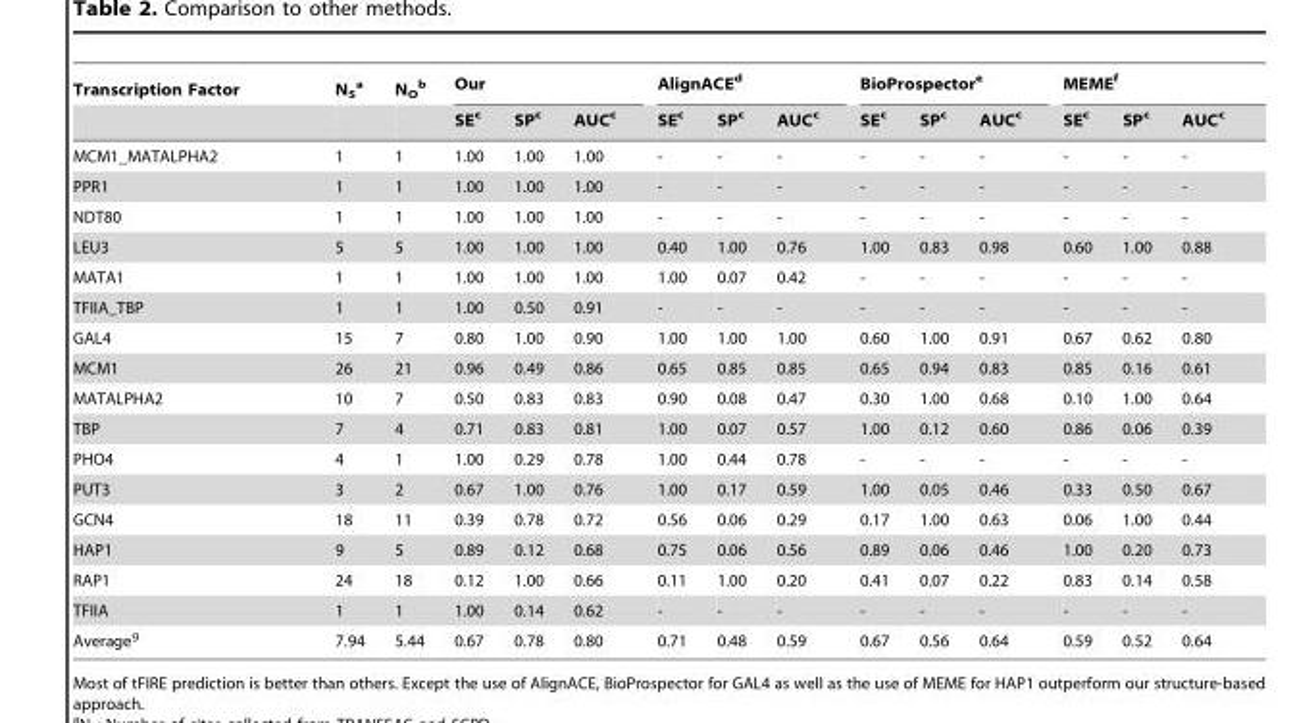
<table><thead><tr><td rowspan="2">Transcription Factor</td><td rowspan="2">N<sub>S</sub> a</td><td rowspan="2">N<sub>O</sub> b</td><td colspan="3">Our</td><td colspan="3">AlignACE<sup>d</sup></td><td colspan="3">BioProspector<sup>e</sup></td><td colspan="3">MEME<sup>f</sup></td></tr><tr><td>SE<sup>c</sup></td><td>SP<sup>c</sup></td><td>AUC<sup>c</sup></td><td>SE<sup>c</sup></td><td>SP<sup>c</sup></td><td>AUC<sup>c</sup></td><td>SE<sup>c</sup></td><td>SP<sup>c</sup></td><td>AUC<sup>c</sup></td><td>SE<sup>c</sup></td><td>SP<sup>c</sup></td><td>AUC<sup>c</sup></td></tr></thead><tbody><tr><td>MCM1_MATALPHA2</td><td>1</td><td>1</td><td>1.00</td><td>1.00</td><td>1.00</td><td>-</td><td>-</td><td>-</td><td>-</td><td>-</td><td>-</td><td>-</td><td>-</td><td>-</td></tr><tr><td>PPR1</td><td>1</td><td>1</td><td>1.00</td><td>1.00</td><td>1.00</td><td>-</td><td>-</td><td>-</td><td>-</td><td>-</td><td>-</td><td>-</td><td>-</td><td>-</td></tr><tr><td>NDT80</td><td>1</td><td>1</td><td>1.00</td><td>1.00</td><td>1.00</td><td>-</td><td>-</td><td>-</td><td>-</td><td>-</td><td>-</td><td>-</td><td>-</td><td>-</td></tr><tr><td>LEU3</td><td>5</td><td>5</td><td>1.00</td><td>1.00</td><td>1.00</td><td>0.40</td><td>1.00</td><td>0.76</td><td>1.00</td><td>0.83</td><td>0.98</td><td>0.60</td><td>1.00</td><td>0.88</td></tr><tr><td>MATA1</td><td>1</td><td>1</td><td>1.00</td><td>1.00</td><td>1.00</td><td>1.00</td><td>0.07</td><td>0.42</td><td>-</td><td>-</td><td>-</td><td>-</td><td>-</td><td>-</td></tr><tr><td>TFIIA_TBP</td><td>1</td><td>1</td><td>1.00</td><td>0.50</td><td>0.91</td><td>-</td><td>-</td><td>-</td><td>-</td><td>-</td><td>-</td><td>-</td><td>-</td><td>-</td></tr><tr><td>GAL4</td><td>15</td><td>7</td><td>0.80</td><td>1.00</td><td>0.90</td><td>1.00</td><td>1.00</td><td>1.00</td><td>0.60</td><td>1.00</td><td>0.91</td><td>0.67</td><td>0.62</td><td>0.80</td></tr><tr><td>MCM1</td><td>26</td><td>21</td><td>0.96</td><td>0.49</td><td>0.86</td><td>0.65</td><td>0.85</td><td>0.85</td><td>0.65</td><td>0.94</td><td>0.83</td><td>0.85</td><td>0.16</td><td>0.61</td></tr><tr><td>MATALPHA2</td><td>10</td><td>7</td><td>0.50</td><td>0.83</td><td>0.83</td><td>0.90</td><td>0.08</td><td>0.47</td><td>0.30</td><td>1.00</td><td>0.68</td><td>0.10</td><td>1.00</td><td>0.64</td></tr><tr><td>TBP</td><td>7</td><td>4</td><td>0.71</td><td>0.83</td><td>0.81</td><td>1.00</td><td>0.07</td><td>0.57</td><td>1.00</td><td>0.12</td><td>0.60</td><td>0.86</td><td>0.06</td><td>0.39</td></tr><tr><td>PHO4</td><td>4</td><td>1</td><td>1.00</td><td>0.29</td><td>0.78</td><td>1.00</td><td>0.44</td><td>0.78</td><td>-</td><td>-</td><td>-</td><td>-</td><td>-</td><td>-</td></tr><tr><td>PUT3</td><td>3</td><td>2</td><td>0.67</td><td>1.00</td><td>0.76</td><td>1.00</td><td>0.17</td><td>0.59</td><td>1.00</td><td>0.05</td><td>0.46</td><td>0.33</td><td>0.50</td><td>0.67</td></tr><tr><td>GCN4</td><td>18</td><td>11</td><td>0.39</td><td>0.78</td><td>0.72</td><td>0.56</td><td>0.06</td><td>0.29</td><td>0.17</td><td>1.00</td><td>0.63</td><td>0.06</td><td>1.00</td><td>0.44</td></tr><tr><td>HAP1</td><td>9</td><td>5</td><td>0.89</td><td>0.12</td><td>0.68</td><td>0.75</td><td>0.06</td><td>0.56</td><td>0.89</td><td>0.06</td><td>0.46</td><td>1.00</td><td>0.20</td><td>0.73</td></tr><tr><td>RAP1</td><td>24</td><td>18</td><td>0.12</td><td>1.00</td><td>0.66</td><td>0.11</td><td>1.00</td><td>0.20</td><td>0.41</td><td>0.07</td><td>0.22</td><td>0.83</td><td>0.14</td><td>0.58</td></tr><tr><td>TFIIA</td><td>1</td><td>1</td><td>1.00</td><td>0.14</td><td>0.62</td><td>-</td><td>-</td><td>-</td><td>-</td><td>-</td><td>-</td><td>-</td><td>-</td><td>-</td></tr><tr><td>Average<sup>g</sup></td><td>7.94</td><td>5.44</td><td>0.67</td><td>0.78</td><td>0.80</td><td>0.71</td><td>0.48</td><td>0.59</td><td>0.67</td><td>0.56</td><td>0.64</td><td>0.59</td><td>0.52</td><td>0.64</td></tr></tbody></table>